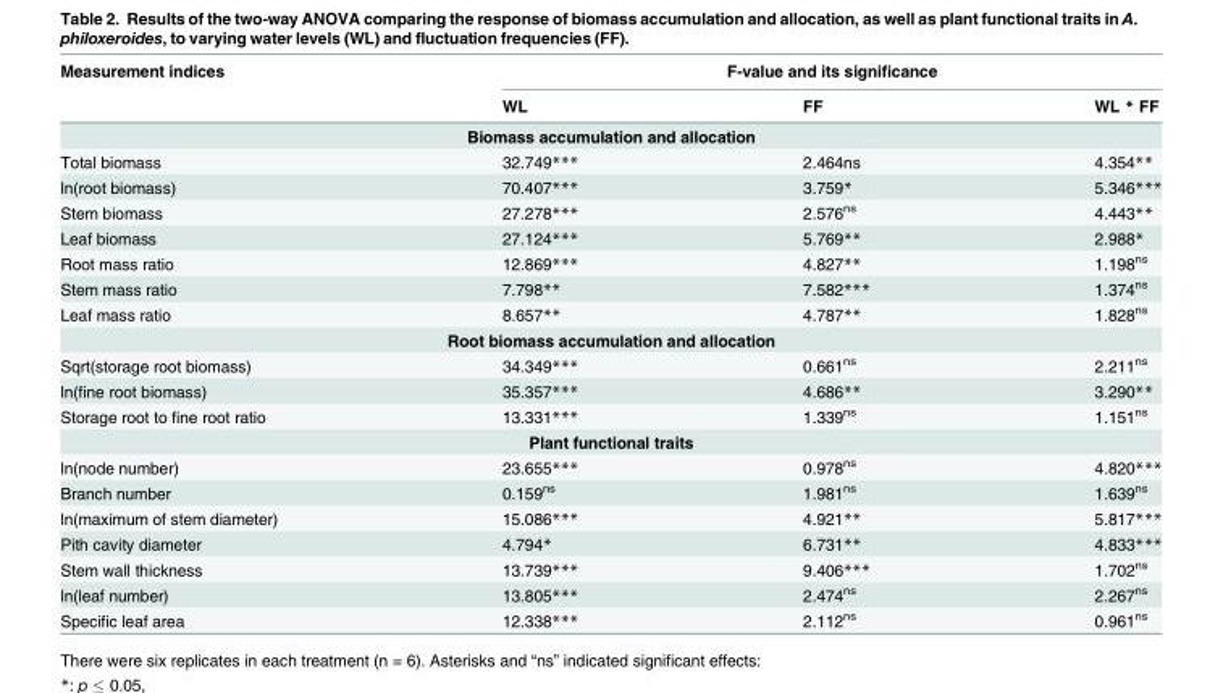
<table><thead><tr><td rowspan="2">Measurement indices</td><td colspan="3">F-value and its significance</td></tr><tr><td>WL</td><td>FF</td><td>WL * FF</td></tr></thead><tbody><tr><td colspan="4">Biomass accumulation and allocation</td></tr><tr><td>Total biomass</td><td>32.749***</td><td>2.464ns</td><td>4.354**</td></tr><tr><td>ln(root biomass)</td><td>70.407***</td><td>3.759*</td><td>5.346***</td></tr><tr><td>Stem biomass</td><td>27.278***</td><td>2.576<sup>ns</sup></td><td>4.443**</td></tr><tr><td>Leaf biomass</td><td>27.124***</td><td>5.769**</td><td>2.988*</td></tr><tr><td>Root mass ratio</td><td>12.869***</td><td>4.827**</td><td>1.198<sup>ns</sup></td></tr><tr><td>Stem mass ratio</td><td>7.798**</td><td>7.582***</td><td>1.374<sup>ns</sup></td></tr><tr><td>Leaf mass ratio</td><td>8.657**</td><td>4.787**</td><td>1.828<sup>ns</sup></td></tr><tr><td colspan="4">Root biomass accumulation and allocation</td></tr><tr><td>Sqrt(storage root biomass)</td><td>34.349***</td><td>0.661<sup>ns</sup></td><td>2.211<sup>ns</sup></td></tr><tr><td>ln(fine root biomass)</td><td>35.357***</td><td>4.686**</td><td>3.290**</td></tr><tr><td>Storage root to fine root ratio</td><td>13.331***</td><td>1.339<sup>ns</sup></td><td>1.151<sup>ns</sup></td></tr><tr><td colspan="4">Plant functional traits</td></tr><tr><td>ln(node number)</td><td>23.655***</td><td>0.978<sup>ns</sup></td><td>4.820***</td></tr><tr><td>Branch number</td><td>0.159<sup>ns</sup></td><td>1.981<sup>ns</sup></td><td>1.639<sup>ns</sup></td></tr><tr><td>ln(maximum of stem diameter)</td><td>15.086***</td><td>4.921**</td><td>5.817***</td></tr><tr><td>Pith cavity diameter</td><td>4.794*</td><td>6.731**</td><td>4.833***</td></tr><tr><td>Stem wall thickness</td><td>13.739***</td><td>9.406***</td><td>1.702<sup>ns</sup></td></tr><tr><td>ln(leaf number)</td><td>13.805***</td><td>2.474<sup>ns</sup></td><td>2.267<sup>ns</sup></td></tr><tr><td>Specific leaf area</td><td>12.338***</td><td>2.112<sup>ns</sup></td><td>0.961<sup>ns</sup></td></tr></tbody></table>